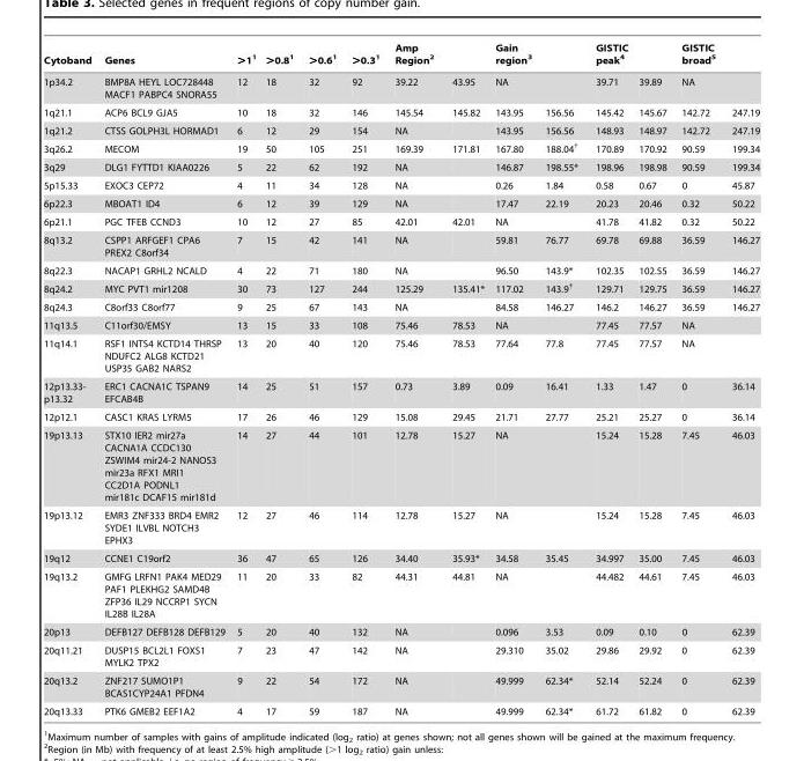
<table><thead><tr><td>Cytoband</td><td>Genes</td><td>&gt;1<sup>1</sup></td><td>&gt;0.8<sup>1</sup></td><td>&gt;0.6<sup>1</sup></td><td>&gt;0.3<sup>1</sup></td><td>Amp Region<sup>2</sup></td><td></td><td>Gain region<sup>3</sup></td><td></td><td>GISTIC peak<sup>4</sup></td><td></td><td>GISTIC broad<sup>5</sup></td><td></td></tr></thead><tbody><tr><td>1p34.2</td><td>BMP8A HEYL LOC728448 MACF1 PABPC4 SNORA55</td><td>12</td><td>18</td><td>32</td><td>92</td><td>39.22</td><td>43.95</td><td>NA</td><td></td><td>39.71</td><td>39.89</td><td>NA</td><td></td></tr><tr><td>1q21.1</td><td>ACP6 BCL9 GJA5</td><td>10</td><td>18</td><td>32</td><td>146</td><td>145.54</td><td>145.82</td><td>143.95</td><td>156.56</td><td>145.42</td><td>145.67</td><td>142.72</td><td>247.19</td></tr><tr><td>1q21.2</td><td>CTSS GOLPH3L HORMAD1</td><td>6</td><td>12</td><td>29</td><td>154</td><td>NA</td><td></td><td>143.95</td><td>156.56</td><td>148.93</td><td>148.97</td><td>142.72</td><td>247.19</td></tr><tr><td>3q26.2</td><td>MECOM</td><td>19</td><td>50</td><td>105</td><td>251</td><td>169.39</td><td>171.81</td><td>167.80</td><td>188.04†</td><td>170.89</td><td>170.92</td><td>90.59</td><td>199.34</td></tr><tr><td>3q29</td><td>DLG1 FYTTD1 KIAA0226</td><td>5</td><td>22</td><td>62</td><td>192</td><td>NA</td><td></td><td>146.87</td><td>198.55*</td><td>198.96</td><td>198.98</td><td>90.59</td><td>199.34</td></tr><tr><td>5p15.33</td><td>EXOC3 CEP72</td><td>4</td><td>11</td><td>34</td><td>128</td><td>NA</td><td></td><td>0.26</td><td>1.84</td><td>0.58</td><td>0.67</td><td>0</td><td>45.87</td></tr><tr><td>6p22.3</td><td>MBOAT1 ID4</td><td>6</td><td>12</td><td>39</td><td>129</td><td>NA</td><td></td><td>17.47</td><td>22.19</td><td>20.23</td><td>20.46</td><td>0.32</td><td>50.22</td></tr><tr><td>6p21.1</td><td>PGC TFEB CCND3</td><td>10</td><td>12</td><td>27</td><td>85</td><td>42.01</td><td>42.01</td><td>NA</td><td></td><td>41.78</td><td>41.82</td><td>0.32</td><td>50.22</td></tr><tr><td>8q13.2</td><td>CSPP1 ARFGEF1 CPA6 PREX2 C8orf34</td><td>7</td><td>15</td><td>42</td><td>141</td><td>NA</td><td></td><td>59.81</td><td>76.77</td><td>69.78</td><td>69.88</td><td>36.59</td><td>146.27</td></tr><tr><td>8q22.3</td><td>NACAP1 GRHL2 NCALD</td><td>4</td><td>22</td><td>71</td><td>180</td><td>NA</td><td></td><td>96.50</td><td>143.9*</td><td>102.35</td><td>102.55</td><td>36.59</td><td>146.27</td></tr><tr><td>8q24.2</td><td>MYC PVT1 mir1208</td><td>30</td><td>73</td><td>127</td><td>244</td><td>125.29</td><td>135.41*</td><td>117.02</td><td>143.9†</td><td>129.71</td><td>129.75</td><td>36.59</td><td>146.27</td></tr><tr><td>8q24.3</td><td>C8orf33 C8orf77</td><td>9</td><td>25</td><td>67</td><td>143</td><td>NA</td><td></td><td>84.58</td><td>146.27</td><td>146.2</td><td>146.27</td><td>36.59</td><td>146.27</td></tr><tr><td>11q13.5</td><td>C11orf30/EMSY</td><td>13</td><td>15</td><td>33</td><td>108</td><td>75.46</td><td>78.53</td><td>NA</td><td></td><td>77.45</td><td>77.57</td><td>NA</td><td></td></tr><tr><td>11q14.1</td><td>RSF1 INTS4 KCTD14 THRSP NDUFC2 ALG8 KCTD21 USP35 GAB2 NARS2</td><td>13</td><td>20</td><td>40</td><td>120</td><td>75.46</td><td>78.53</td><td>77.64</td><td>77.8</td><td>77.45</td><td>77.57</td><td>NA</td><td></td></tr><tr><td>12p13.33- p13.32</td><td>ERC1 CACNA1C TSPAN9 EFCAB4B</td><td>14</td><td>25</td><td>51</td><td>157</td><td>0.73</td><td>3.89</td><td>0.09</td><td>16.41</td><td>1.33</td><td>1.47</td><td>0</td><td>36.14</td></tr><tr><td>12p12.1</td><td>CASC1 KRAS LYRM5</td><td>17</td><td>26</td><td>46</td><td>129</td><td>15.08</td><td>29.45</td><td>21.71</td><td>27.77</td><td>25.21</td><td>25.27</td><td>0</td><td>36.14</td></tr><tr><td>19p13.13</td><td>STX10 IER2 mir27a CACNA1A CCDC130 ZSWIM4 mir24-2 NANOS3 mir23a RFX1 MRI1 CC2D1A PODNL1 mir181c DCAF15 mir181d</td><td>14</td><td>27</td><td>44</td><td>101</td><td>12.78</td><td>15.27</td><td>NA</td><td></td><td>15.24</td><td>15.28</td><td>7.45</td><td>46.03</td></tr><tr><td>19p13.12</td><td>EMR3 ZNF333 BRD4 EMR2 SYDE1 ILVBL NOTCH3 EPHX3</td><td>12</td><td>27</td><td>46</td><td>114</td><td>12.78</td><td>15.27</td><td>NA</td><td></td><td>15.24</td><td>15.28</td><td>7.45</td><td>46.03</td></tr><tr><td>19q12</td><td>CCNE1 C19orf2</td><td>36</td><td>47</td><td>65</td><td>126</td><td>34.40</td><td>35.93*</td><td>34.58</td><td>35.45</td><td>34.997</td><td>35.00</td><td>7.45</td><td>46.03</td></tr><tr><td>19q13.2</td><td>GMFG LRFN1 PAK4 MED29 PAF1 PLEKHG2 SAMD4B ZFP36 IL29 NCCRP1 SYCN IL28B IL28A</td><td>11</td><td>20</td><td>33</td><td>82</td><td>44.31</td><td>44.81</td><td>NA</td><td></td><td>44.482</td><td>44.61</td><td>7.45</td><td>46.03</td></tr><tr><td>20p13</td><td>DEFB127 DEFB128 DEFB129</td><td>5</td><td>20</td><td>40</td><td>132</td><td>NA</td><td></td><td>0.096</td><td>3.53</td><td>0.09</td><td>0.10</td><td>0</td><td>62.39</td></tr><tr><td>20q11.21</td><td>DUSP15 BCL2L1 FOXS1 MYLK2 TPX2</td><td>7</td><td>23</td><td>47</td><td>142</td><td>NA</td><td></td><td>29.310</td><td>35.02</td><td>29.86</td><td>29.92</td><td>0</td><td>62.39</td></tr><tr><td>20q13.2</td><td>ZNF217 SUMO1P1 BCAS1CYP24A1 PFDN4</td><td>9</td><td>22</td><td>54</td><td>172</td><td>NA</td><td></td><td>49.999</td><td>62.34*</td><td>52.14</td><td>52.24</td><td>0</td><td>62.39</td></tr><tr><td>20q13.33</td><td>PTK6 GMEB2 EEF1A2</td><td>4</td><td>17</td><td>59</td><td>187</td><td>NA</td><td></td><td>49.999</td><td>62.34*</td><td>61.72</td><td>61.82</td><td>0</td><td>62.39</td></tr></tbody></table>